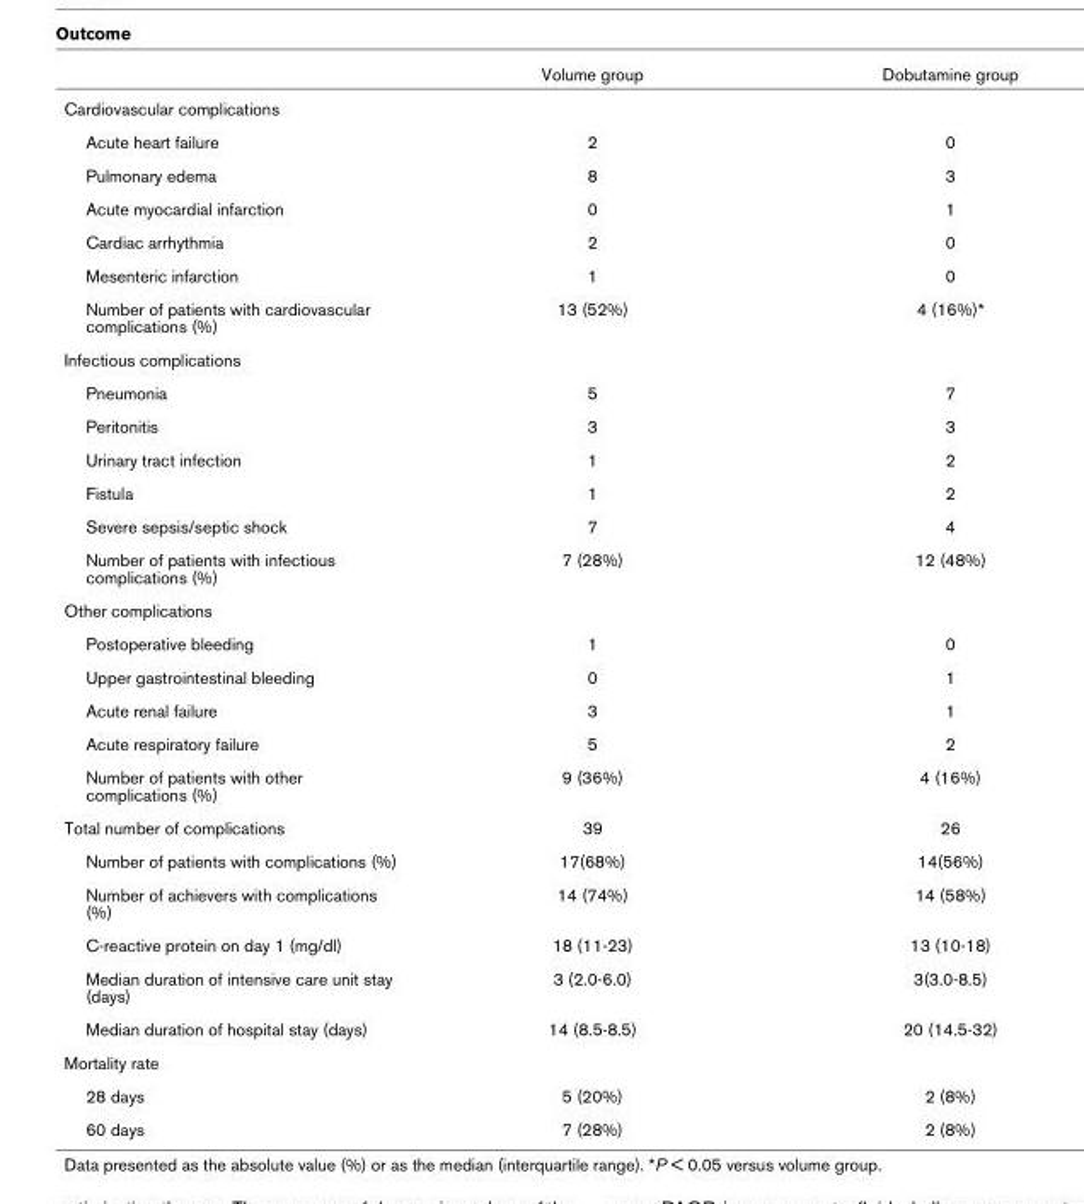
<table><thead><tr><td></td><td>Volume group</td><td>Dobutamine group</td></tr></thead><tbody><tr><td colspan="3">Cardiovascular complications</td></tr><tr><td>Acute heart failure</td><td>2</td><td>0</td></tr><tr><td>Pulmonary edema</td><td>8</td><td>3</td></tr><tr><td>Acute myocardial infarction</td><td>0</td><td>1</td></tr><tr><td>Cardiac arrhythmia</td><td>2</td><td>0</td></tr><tr><td>Mesenteric infarction</td><td>1</td><td>0</td></tr><tr><td>Number of patients with cardiovascular complications (%)</td><td>13 (52%)</td><td>4 (16%)*</td></tr><tr><td colspan="3">Infectious complications</td></tr><tr><td>Pneumonia</td><td>5</td><td>7</td></tr><tr><td>Peritonitis</td><td>3</td><td>3</td></tr><tr><td>Urinary tract infection</td><td>1</td><td>2</td></tr><tr><td>Fistula</td><td>1</td><td>2</td></tr><tr><td>Severe sepsis/septic shock</td><td>7</td><td>4</td></tr><tr><td>Number of patients with infectious complications (%)</td><td>7 (28%)</td><td>12 (48%)</td></tr><tr><td colspan="3">Other complications</td></tr><tr><td>Postoperative bleeding</td><td>1</td><td>0</td></tr><tr><td>Upper gastrointestinal bleeding</td><td>0</td><td>1</td></tr><tr><td>Acute renal failure</td><td>3</td><td>1</td></tr><tr><td>Acute respiratory failure</td><td>5</td><td>2</td></tr><tr><td>Number of patients with other complications (%)</td><td>9 (36%)</td><td>4 (16%)</td></tr><tr><td>Total number of complications</td><td>39</td><td>26</td></tr><tr><td>Number of patients with complications (%)</td><td>17(68%)</td><td>14(56%)</td></tr><tr><td>Number of achievers with complications (%)</td><td>14 (74%)</td><td>14 (58%)</td></tr><tr><td>C-reactive protein on day 1 (mg/dl)</td><td>18 (11-23)</td><td>13 (10-18)</td></tr><tr><td>Median duration of intensive care unit stay (days)</td><td>3 (2.0-6.0)</td><td>3(3.0-8.5)</td></tr><tr><td>Median duration of hospital stay (days)</td><td>14 (8.5-8.5)</td><td>20 (14.5-32)</td></tr><tr><td colspan="3">Mortality rate</td></tr><tr><td>28 days</td><td>5 (20%)</td><td>2 (8%)</td></tr><tr><td>60 days</td><td>7 (28%)</td><td>2 (8%)</td></tr></tbody></table>